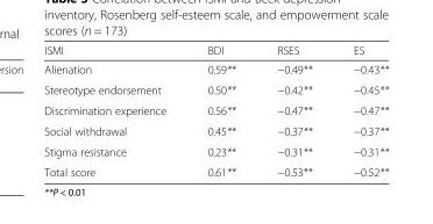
<table><thead><tr><td>ISMI</td><td>BDI</td><td>RSES</td><td>ES</td></tr></thead><tbody><tr><td>Alienation</td><td>0.59**</td><td>−0.49**</td><td>−0.43**</td></tr><tr><td>Stereotype endorsement</td><td>0.50**</td><td>−0.42**</td><td>−0.45**</td></tr><tr><td>Discrimination experience</td><td>0.56**</td><td>−0.47**</td><td>−0.47**</td></tr><tr><td>Social withdrawal</td><td>0.45**</td><td>−0.37**</td><td>−0.37**</td></tr><tr><td>Stigma resistance</td><td>0.23**</td><td>−0.31**</td><td>−0.31**</td></tr><tr><td>Total score</td><td>0.61**</td><td>−0.53**</td><td>−0.52**</td></tr></tbody></table>